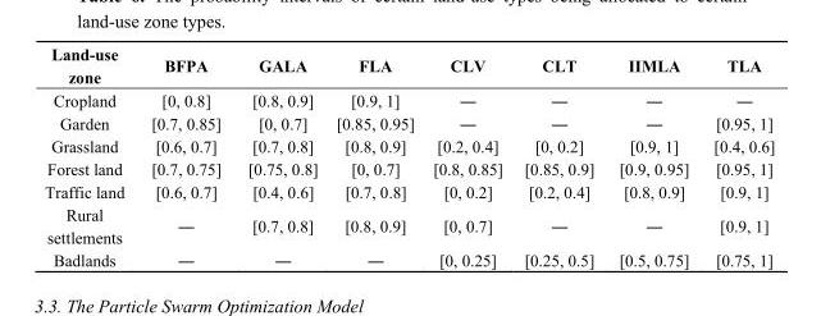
<table><thead><tr><td>Land-use zone</td><td>BFPA</td><td>GALA</td><td>FLA</td><td>CLV</td><td>CLT</td><td>IIMLA</td><td>TLA</td></tr></thead><tbody><tr><td>Cropland</td><td>[0, 0.8]</td><td>[0.8, 0.9]</td><td>[0.9, 1]</td><td>―</td><td>―</td><td>―</td><td>―</td></tr><tr><td>Garden</td><td>[0.7, 0.85]</td><td>[0, 0.7]</td><td>[0.85, 0.95]</td><td>―</td><td>―</td><td>―</td><td>[0.95, 1]</td></tr><tr><td>Grassland</td><td>[0.6, 0.7]</td><td>[0.7, 0.8]</td><td>[0.8, 0.9]</td><td>[0.2, 0.4]</td><td>[0, 0.2]</td><td>[0.9, 1]</td><td>[0.4, 0.6]</td></tr><tr><td>Forest land</td><td>[0.7, 0.75]</td><td>[0.75, 0.8]</td><td>[0, 0.7]</td><td>[0.8, 0.85]</td><td>[0.85, 0.9]</td><td>[0.9, 0.95]</td><td>[0.95, 1]</td></tr><tr><td>Traffic land</td><td>[0.6, 0.7]</td><td>[0.4, 0.6]</td><td>[0.7, 0.8]</td><td>[0, 0.2]</td><td>[0.2, 0.4]</td><td>[0.8, 0.9]</td><td>[0.9, 1]</td></tr><tr><td>Rural settlements</td><td>―</td><td>[0.7, 0.8]</td><td>[0.8, 0.9]</td><td>[0, 0.7]</td><td>―</td><td>―</td><td>[0.9, 1]</td></tr><tr><td>Badlands</td><td>―</td><td>―</td><td>―</td><td>[0, 0.25]</td><td>[0.25, 0.5]</td><td>[0.5, 0.75]</td><td>[0.75, 1]</td></tr></tbody></table>